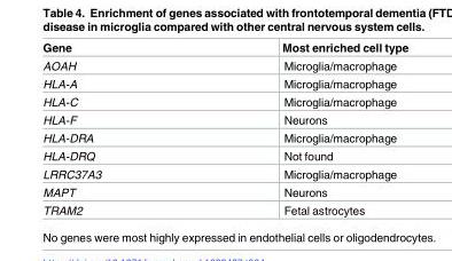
<table><thead><tr><td>Gene</td><td>Most enriched cell type</td></tr></thead><tbody><tr><td>AOAH</td><td>Microglia/macrophage</td></tr><tr><td>HLA-A</td><td>Microglia/macrophage</td></tr><tr><td>HLA-C</td><td>Microglia/macrophage</td></tr><tr><td>HLA-F</td><td>Neurons</td></tr><tr><td>HLA-DRA</td><td>Microglia/macrophage</td></tr><tr><td>HLA-DRQ</td><td>Not found</td></tr><tr><td>LRRC37A3</td><td>Microglia/macrophage</td></tr><tr><td>MAPT</td><td>Neurons</td></tr><tr><td>TRAM2</td><td>Fetal astrocytes</td></tr></tbody></table>